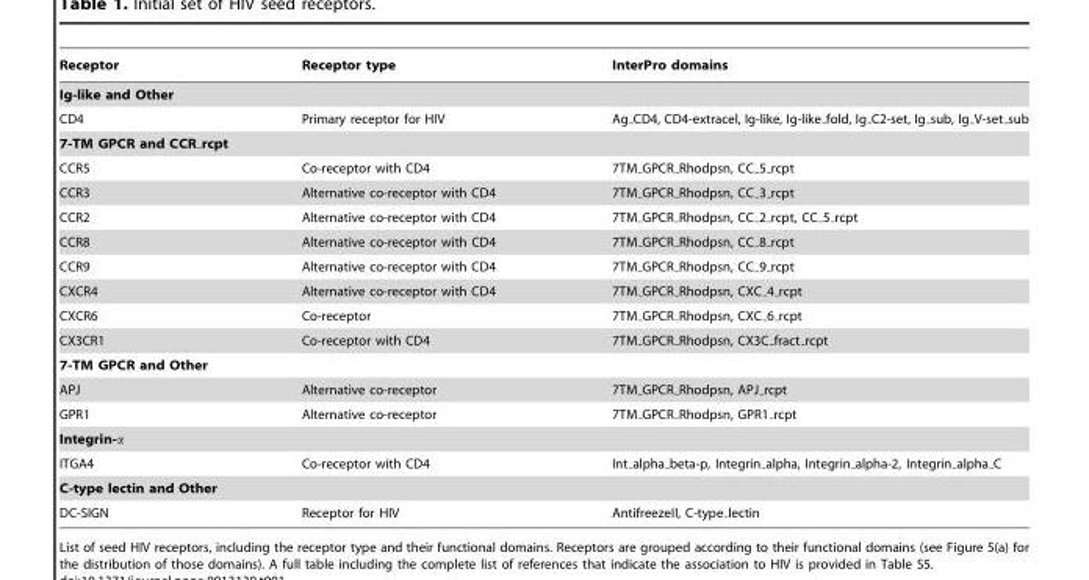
<table><thead><tr><td>Receptor</td><td>Receptor type</td><td>InterPro domains</td></tr></thead><tbody><tr><td colspan="3">Ig-like and Other</td></tr><tr><td>CD4</td><td>Primary receptor for HIV</td><td>Ag CD4, CD4-extracel, Ig-like, Ig-like fold, Ig C2-set, Ig sub, Ig V-set sub</td></tr><tr><td colspan="3">7-TM GPCR and CCR rcpt</td></tr><tr><td>CCR5</td><td>Co-receptor with CD4</td><td>7TM GPCR Rhodpsn, CC 5 rcpt</td></tr><tr><td>CCR3</td><td>Alternative co-receptor with CD4</td><td>7TM GPCR Rhodpsn, CC 3 rcpt</td></tr><tr><td>CCR2</td><td>Alternative co-receptor with CD4</td><td>7TM GPCR Rhodpsn, CC 2 rcpt, CC 5 rcpt</td></tr><tr><td>CCR8</td><td>Alternative co-receptor with CD4</td><td>7TM GPCR Rhodpsn, CC 8 rcpt</td></tr><tr><td>CCR9</td><td>Alternative co-receptor with CD4</td><td>7TM GPCR Rhodpsn, CC 9 rcpt</td></tr><tr><td>CXCR4</td><td>Alternative co-receptor with CD4</td><td>7TM GPCR Rhodpsn, CXC 4 rcpt</td></tr><tr><td>CXCR6</td><td>Co-receptor</td><td>7TM GPCR Rhodpsn, CXC 6 rcpt</td></tr><tr><td>CX3CR1</td><td>Co-receptor with CD4</td><td>7TM GPCR Rhodpsn, CX3C fract rcpt</td></tr><tr><td colspan="3">7-TM GPCR and Other</td></tr><tr><td>APJ</td><td>Alternative co-receptor</td><td>7TM GPCR Rhodpsn, APJ rcpt</td></tr><tr><td>GPR1</td><td>Alternative co-receptor</td><td>7TM GPCR Rhodpsn, GPR1 rcpt</td></tr><tr><td colspan="3">Integrin-a</td></tr><tr><td>ITGA4</td><td>Co-receptor with CD4</td><td>Int alpha beta-p, Integrin alpha, Integrin alpha-2, Integrin alpha C</td></tr><tr><td colspan="3">C-type lectin and Other</td></tr><tr><td>DC-SIGN</td><td>Receptor for HIV</td><td>AntifreezeII, C-type lectin</td></tr></tbody></table>